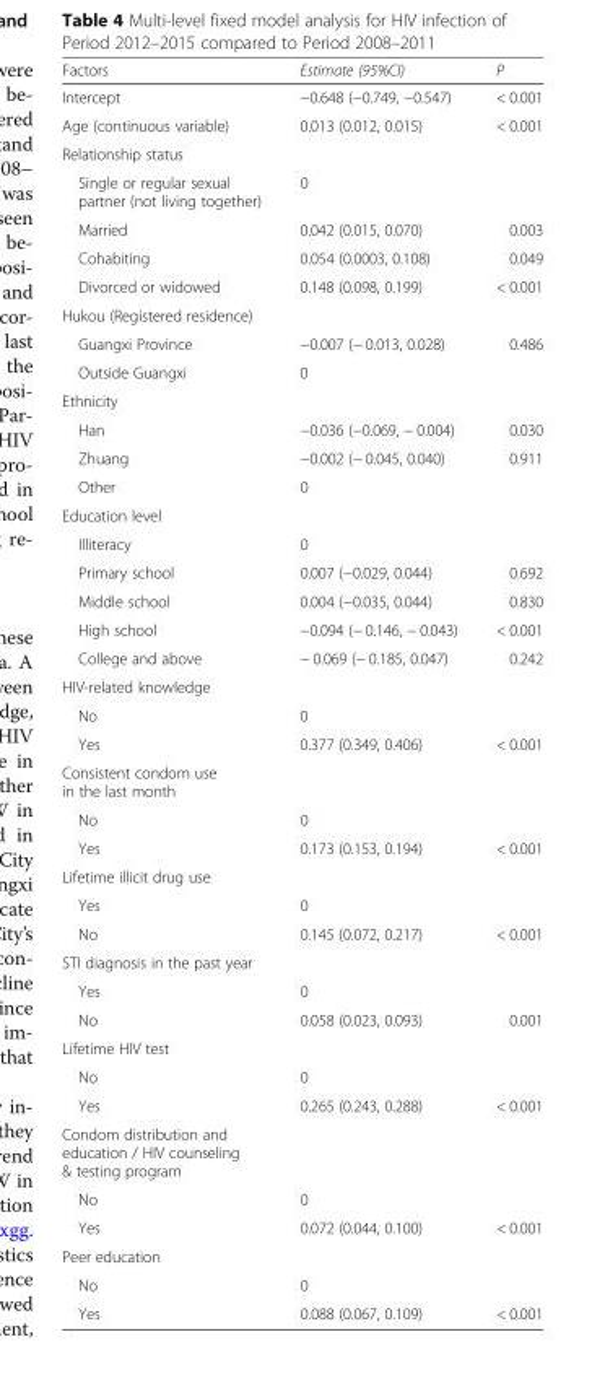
<table><thead><tr><td>Factors</td><td>Estimate (95%CI)</td><td>P</td></tr></thead><tbody><tr><td>Intercept</td><td>−0.648 (−0.749, −0.547)</td><td>&lt; 0.001</td></tr><tr><td>Age (continuous variable)</td><td>0.013 (0.012, 0.015)</td><td>&lt; 0.001</td></tr><tr><td colspan="3">Relationship status</td></tr><tr><td>Single or regular sexual partner (not living together)</td><td>0</td><td></td></tr><tr><td>Married</td><td>0.042 (0.015, 0.070)</td><td>0.003</td></tr><tr><td>Cohabiting</td><td>0.054 (0.0003, 0.108)</td><td>0.049</td></tr><tr><td>Divorced or widowed</td><td>0.148 (0.098, 0.199)</td><td>&lt; 0.001</td></tr><tr><td colspan="3">Hukou (Registered residence)</td></tr><tr><td>Guangxi Province</td><td>−0.007 (− 0.013, 0.028)</td><td>0.486</td></tr><tr><td>Outside Guangxi</td><td>0</td><td></td></tr><tr><td colspan="3">Ethnicity</td></tr><tr><td>Han</td><td>−0.036 (−0.069, − 0.004)</td><td>0.030</td></tr><tr><td>Zhuang</td><td>−0.002 (− 0.045, 0.040)</td><td>0.911</td></tr><tr><td>Other</td><td>0</td><td></td></tr><tr><td colspan="3">Education level</td></tr><tr><td>Illiteracy</td><td>0</td><td></td></tr><tr><td>Primary school</td><td>0.007 (−0.029, 0.044)</td><td>0.692</td></tr><tr><td>Middle school</td><td>0.004 (−0.035, 0.044)</td><td>0.830</td></tr><tr><td>High school</td><td>−0.094 (− 0.146, − 0.043)</td><td>&lt; 0.001</td></tr><tr><td>College and above</td><td>− 0.069 (− 0.185, 0.047)</td><td>0.242</td></tr><tr><td colspan="3">HIV-related knowledge</td></tr><tr><td>No</td><td>0</td><td></td></tr><tr><td>Yes</td><td>0.377 (0.349, 0.406)</td><td>&lt; 0.001</td></tr><tr><td colspan="3">Consistent condom use in the last month</td></tr><tr><td>No</td><td>0</td><td></td></tr><tr><td>Yes</td><td>0.173 (0.153, 0.194)</td><td>&lt; 0.001</td></tr><tr><td colspan="3">Lifetime illicit drug use</td></tr><tr><td>Yes</td><td>0</td><td></td></tr><tr><td>No</td><td>0.145 (0.072, 0.217)</td><td>&lt; 0.001</td></tr><tr><td colspan="3">STI diagnosis in the past year</td></tr><tr><td>Yes</td><td>0</td><td></td></tr><tr><td>No</td><td>0.058 (0.023, 0.093)</td><td>0.001</td></tr><tr><td colspan="3">Lifetime HIV test</td></tr><tr><td>No</td><td>0</td><td></td></tr><tr><td>Yes</td><td>0.265 (0.243, 0.288)</td><td>&lt; 0.001</td></tr><tr><td colspan="3">Condom distribution and education / HIV counseling &amp; testing program</td></tr><tr><td>No</td><td>0</td><td></td></tr><tr><td>Yes</td><td>0.072 (0.044, 0.100)</td><td>&lt; 0.001</td></tr><tr><td colspan="3">Peer education</td></tr><tr><td>No</td><td>0</td><td></td></tr><tr><td>Yes</td><td>0.088 (0.067, 0.109)</td><td>&lt; 0.001</td></tr></tbody></table>